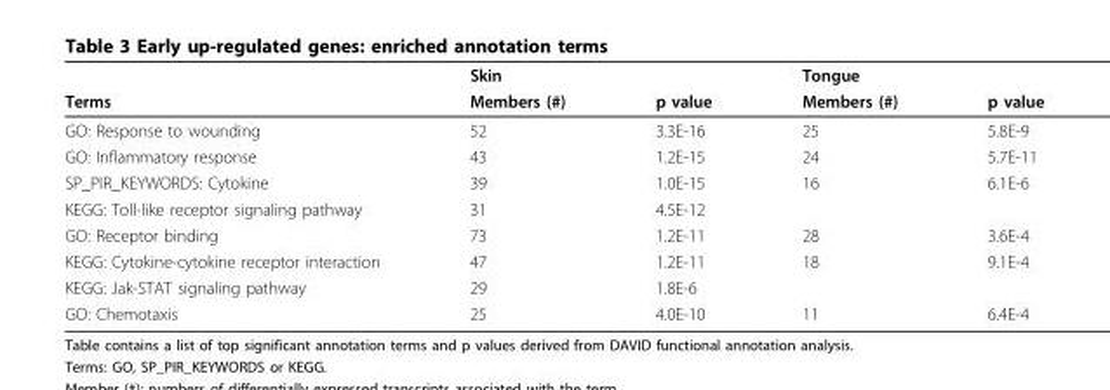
<table><thead><tr><td rowspan="2">Terms</td><td rowspan="2">Skin Members (#)</td><td rowspan="2">p value</td><td rowspan="2">Tongue Members (#)</td><td rowspan="2">p value</td></tr><tr></tr></thead><tbody><tr><td>GO: Response to wounding</td><td>52</td><td>3.3E-16</td><td>25</td><td>5.8E-9</td></tr><tr><td>GO: Inflammatory response</td><td>43</td><td>1.2E-15</td><td>24</td><td>5.7E-11</td></tr><tr><td>SP_PIR_KEYWORDS: Cytokine</td><td>39</td><td>1.0E-15</td><td>16</td><td>6.1E-6</td></tr><tr><td>KEGG: Toll-like receptor signaling pathway</td><td>31</td><td>4.5E-12</td><td></td><td></td></tr><tr><td>GO: Receptor binding</td><td>73</td><td>1.2E-11</td><td>28</td><td>3.6E-4</td></tr><tr><td>KEGG: Cytokine-cytokine receptor interaction</td><td>47</td><td>1.2E-11</td><td>18</td><td>9.1E-4</td></tr><tr><td>KEGG: Jak-STAT signaling pathway</td><td>29</td><td>1.8E-6</td><td></td><td></td></tr><tr><td>GO: Chemotaxis</td><td>25</td><td>4.0E-10</td><td>11</td><td>6.4E-4</td></tr></tbody></table>